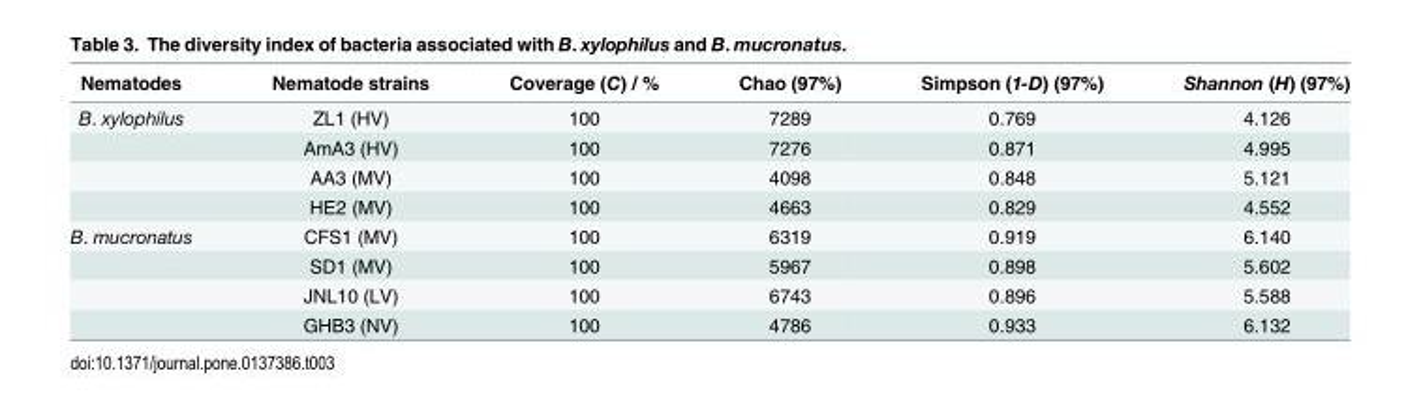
<table><thead><tr><td>Nematodes</td><td>Nematode strains</td><td>Coverage (C) / %</td><td>Chao (97%)</td><td>Simpson (1-D) (97%)</td><td>Shannon (H) (97%)</td></tr></thead><tbody><tr><td rowspan="4">B. xylophilus</td><td>ZL1 (HV)</td><td>100</td><td>7289</td><td>0.769</td><td>4.126</td></tr><tr><td>AmA3 (HV)</td><td>100</td><td>7276</td><td>0.871</td><td>4.995</td></tr><tr><td>AA3 (MV)</td><td>100</td><td>4098</td><td>0.848</td><td>5.121</td></tr><tr><td>HE2 (MV)</td><td>100</td><td>4663</td><td>0.829</td><td>4.552</td></tr><tr><td rowspan="4">B. mucronatus</td><td>CFS1 (MV)</td><td>100</td><td>6319</td><td>0.919</td><td>6.140</td></tr><tr><td>SD1 (MV)</td><td>100</td><td>5967</td><td>0.898</td><td>5.602</td></tr><tr><td>JNL10 (LV)</td><td>100</td><td>6743</td><td>0.896</td><td>5.588</td></tr><tr><td>GHB3 (NV)</td><td>100</td><td>4786</td><td>0.933</td><td>6.132</td></tr></tbody></table>